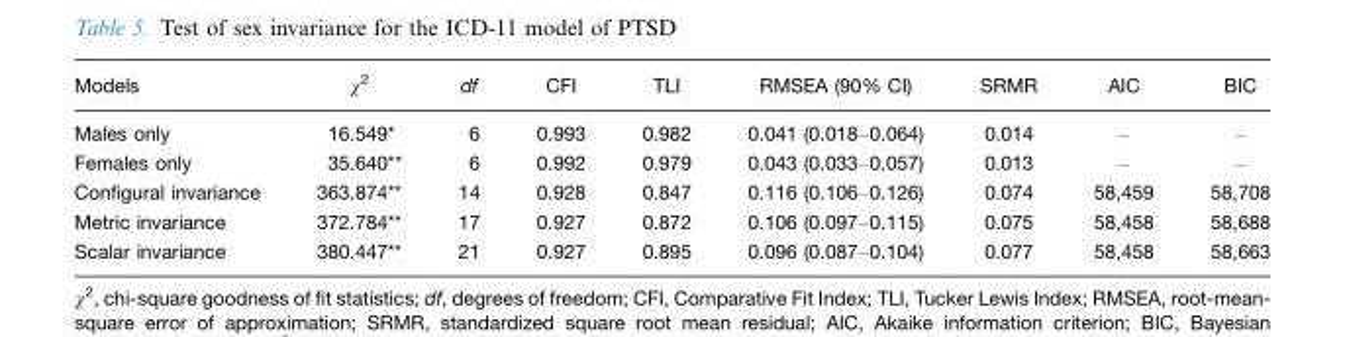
<table><thead><tr><td>Models</td><td>χ<sup>2</sup></td><td>df</td><td>CFI</td><td>TLI</td><td>RMSEA (90% CI)</td><td>SRMR</td><td>AIC</td><td>BIC</td></tr></thead><tbody><tr><td>Males only</td><td>16.549*</td><td>6</td><td>0.993</td><td>0.982</td><td>0.041 (0.018–0.064)</td><td>0.014</td><td>–</td><td>–</td></tr><tr><td>Females only</td><td>35.640**</td><td>6</td><td>0.992</td><td>0.979</td><td>0.043 (0.033–0.057)</td><td>0.013</td><td>–</td><td>–</td></tr><tr><td>Configural invariance</td><td>363.874**</td><td>14</td><td>0.928</td><td>0.847</td><td>0.116 (0.106–0.126)</td><td>0.074</td><td>58,459</td><td>58,708</td></tr><tr><td>Metric invariance</td><td>372.784**</td><td>17</td><td>0.927</td><td>0.872</td><td>0.106 (0.097–0.115)</td><td>0.075</td><td>58,458</td><td>58,688</td></tr><tr><td>Scalar invariance</td><td>380.447**</td><td>21</td><td>0.927</td><td>0.895</td><td>0.096 (0.087–0.104)</td><td>0.077</td><td>58,458</td><td>58,663</td></tr></tbody></table>